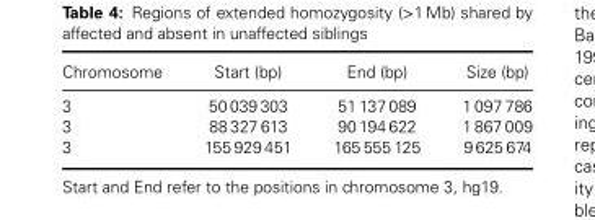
<table><thead><tr><td>Chromosome</td><td>Start (bp)</td><td>End (bp)</td><td>Size (bp)</td></tr></thead><tbody><tr><td>3</td><td>50 039 303</td><td>51 137 089</td><td>1 097 786</td></tr><tr><td>3</td><td>88 327 613</td><td>90 194 622</td><td>1 867 009</td></tr><tr><td>3</td><td>155 929 451</td><td>165 555 125</td><td>9 625 674</td></tr></tbody></table>